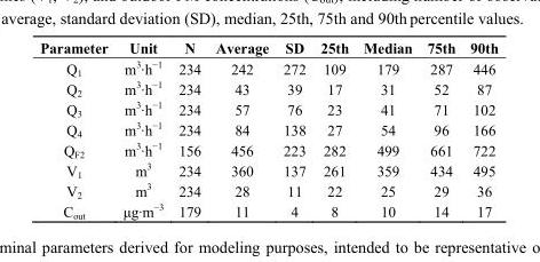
<table><thead><tr><td>Parameter</td><td>Unit</td><td>N</td><td>Average</td><td>SD</td><td>25th</td><td>Median</td><td>75th</td><td>90th</td></tr></thead><tbody><tr><td>Q<sub>1</sub></td><td>m<sup>3</sup>·h<sup>−1</sup></td><td>234</td><td>242</td><td>272</td><td>109</td><td>179</td><td>287</td><td>446</td></tr><tr><td>Q<sub>2</sub></td><td>m<sup>3</sup>·h<sup>−1</sup></td><td>234</td><td>43</td><td>39</td><td>17</td><td>31</td><td>52</td><td>87</td></tr><tr><td>Q<sub>3</sub></td><td>m<sup>3</sup>·h<sup>−1</sup></td><td>234</td><td>57</td><td>76</td><td>23</td><td>41</td><td>71</td><td>102</td></tr><tr><td>Q<sub>4</sub></td><td>m<sup>3</sup>·h<sup>−1</sup></td><td>234</td><td>84</td><td>138</td><td>27</td><td>54</td><td>96</td><td>166</td></tr><tr><td>Q<sub>F2</sub></td><td>m<sup>3</sup>·h<sup>−1</sup></td><td>156</td><td>456</td><td>223</td><td>282</td><td>499</td><td>661</td><td>722</td></tr><tr><td>V<sub>1</sub></td><td>m<sup>3</sup></td><td>234</td><td>360</td><td>137</td><td>261</td><td>359</td><td>434</td><td>495</td></tr><tr><td>V<sub>2</sub></td><td>m<sup>3</sup></td><td>234</td><td>28</td><td>11</td><td>22</td><td>25</td><td>29</td><td>36</td></tr><tr><td>C<sub>out</sub></td><td>μg·m<sup>−3</sup></td><td>179</td><td>11</td><td>4</td><td>8</td><td>10</td><td>14</td><td>17</td></tr></tbody></table>